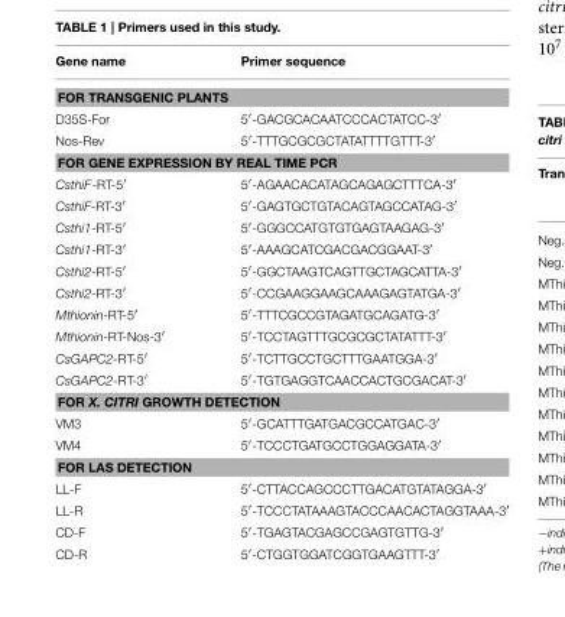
<table><thead><tr><td>Gene name</td><td>Primer sequence</td></tr></thead><tbody><tr><td colspan="2">FOR TRANSGENIC PLANTS</td></tr><tr><td>D35S-For</td><td>5′-GACGCACAATCCCACTATCC-3′</td></tr><tr><td>Nos-Rev</td><td>5′-TTTGCGCGCTATATTTTGTTT-3′</td></tr><tr><td colspan="2">FOR GENE EXPRESSION BY REAL TIME PCR</td></tr><tr><td>CsthiF-RT-5′</td><td>5′-AGAACACATAGCAGAGCTTTCA-3′</td></tr><tr><td>CsthiF-RT-3′</td><td>5′-GAGTGCTGTACAGTAGCCATAG-3′</td></tr><tr><td>Csthi1-RT-5′</td><td>5′-GGGCCATGTGTGAGTAAGAG-3′</td></tr><tr><td>Csthi1-RT-3′</td><td>5′-AAAGCATCGACGACGGAAT-3′</td></tr><tr><td>Csthi2-RT-5′</td><td>5′-GGCTAAGTCAGTTGCTAGCATTA-3′</td></tr><tr><td>Csthi2-RT-3′</td><td>5′-CCGAAGGAAGCAAAGAGTATGA-3′</td></tr><tr><td>Mthionin-RT-5′</td><td>5′-TTTCGCCGTAGATGCAGATG-3′</td></tr><tr><td>Mthionin-RT-Nos-3′</td><td>5′-TCCTAGTTTGCGCGCTATATTT-3′</td></tr><tr><td>CsGAPC2-RT-5′</td><td>5′-TCTTGCCTGCTTTGAATGGA-3′</td></tr><tr><td>CsGAPC2-RT-3′</td><td>5′-TGTGAGGTCAACCACTGCGACAT-3′</td></tr><tr><td colspan="2">FOR X. CITRI GROWTH DETECTION</td></tr><tr><td>VM3</td><td>5′-GCATTTGATGACGCCATGAC-3′</td></tr><tr><td>VM4</td><td>5′-TCCCTGATGCCTGGAGGATA-3′</td></tr><tr><td colspan="2">FOR LAS DETECTION</td></tr><tr><td>LL-F</td><td>5′-CTTACCAGCCCTTGACATGTATAGGA-3′</td></tr><tr><td>LL-R</td><td>5′-TCCCTATAAAGTACCCAACACTAGGTAAA-3′</td></tr><tr><td>CD-F</td><td>5′-TGAGTACGAGCCGAGTGTTG-3′</td></tr><tr><td>CD-R</td><td>5′-CTGGTGGATCGGTGAAGTTT-3′</td></tr></tbody></table>